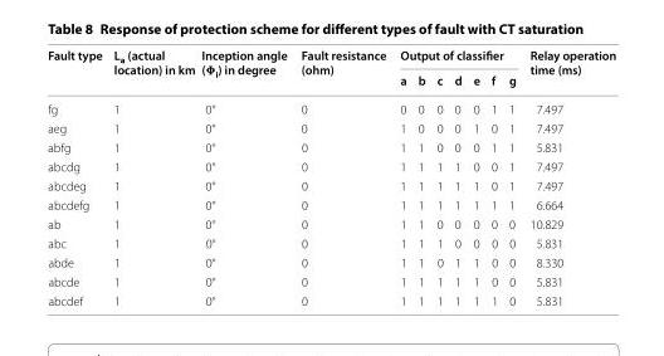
<table><thead><tr><td rowspan="2">Fault type</td><td rowspan="2">L<sub>a</sub> (actual location) in km</td><td rowspan="2">Inception angle (Φ<sub>i</sub>) in degree</td><td rowspan="2">Fault resistance (ohm)</td><td colspan="7">Output of classifier</td><td rowspan="2">Relay operation time (ms)</td></tr><tr><td>a</td><td>b</td><td>c</td><td>d</td><td>e</td><td>f</td><td>g</td></tr></thead><tbody><tr><td>fg</td><td>1</td><td>0°</td><td>0</td><td>0</td><td>0</td><td>0</td><td>0</td><td>0</td><td>1</td><td>1</td><td>7.497</td></tr><tr><td>aeg</td><td>1</td><td>0°</td><td>0</td><td>1</td><td>0</td><td>0</td><td>0</td><td>1</td><td>0</td><td>1</td><td>7.497</td></tr><tr><td>abfg</td><td>1</td><td>0°</td><td>0</td><td>1</td><td>1</td><td>0</td><td>0</td><td>0</td><td>1</td><td>1</td><td>5.831</td></tr><tr><td>abcdg</td><td>1</td><td>0°</td><td>0</td><td>1</td><td>1</td><td>1</td><td>1</td><td>0</td><td>0</td><td>1</td><td>7.497</td></tr><tr><td>abcdeg</td><td>1</td><td>0°</td><td>0</td><td>1</td><td>1</td><td>1</td><td>1</td><td>1</td><td>0</td><td>1</td><td>7.497</td></tr><tr><td>abcdefg</td><td>1</td><td>0°</td><td>0</td><td>1</td><td>1</td><td>1</td><td>1</td><td>1</td><td>1</td><td>1</td><td>6.664</td></tr><tr><td>ab</td><td>1</td><td>0°</td><td>0</td><td>1</td><td>1</td><td>0</td><td>0</td><td>0</td><td>0</td><td>0</td><td>10.829</td></tr><tr><td>abc</td><td>1</td><td>0°</td><td>0</td><td>1</td><td>1</td><td>1</td><td>0</td><td>0</td><td>0</td><td>0</td><td>5.831</td></tr><tr><td>abde</td><td>1</td><td>0°</td><td>0</td><td>1</td><td>1</td><td>0</td><td>1</td><td>1</td><td>0</td><td>0</td><td>8.330</td></tr><tr><td>abcde</td><td>1</td><td>0°</td><td>0</td><td>1</td><td>1</td><td>1</td><td>1</td><td>1</td><td>0</td><td>0</td><td>5.831</td></tr><tr><td>abcdef</td><td>1</td><td>0°</td><td>0</td><td>1</td><td>1</td><td>1</td><td>1</td><td>1</td><td>1</td><td>0</td><td>5.831</td></tr></tbody></table>